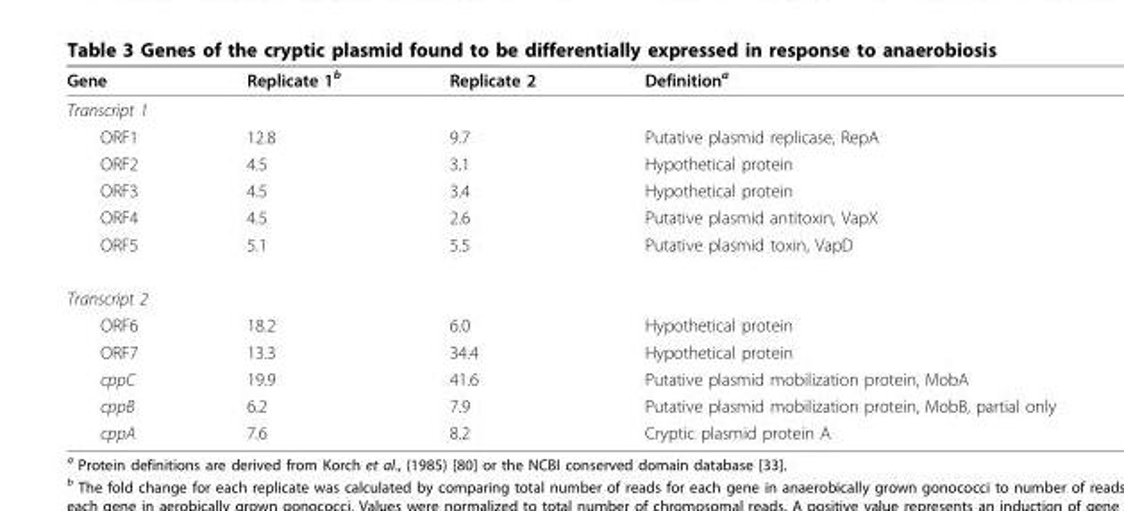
<table><thead><tr><td>Gene</td><td>Replicate 1<sup>b</sup></td><td>Replicate 2</td><td>Definition<sup>a</sup></td></tr></thead><tbody><tr><td colspan="4">Transcript 1</td></tr><tr><td>ORF1</td><td>12.8</td><td>9.7</td><td>Putative plasmid replicase, RepA</td></tr><tr><td>ORF2</td><td>4.5</td><td>3.1</td><td>Hypothetical protein</td></tr><tr><td>ORF3</td><td>4.5</td><td>3.4</td><td>Hypothetical protein</td></tr><tr><td>ORF4</td><td>4.5</td><td>2.6</td><td>Putative plasmid antitoxin, VapX</td></tr><tr><td>ORF5</td><td>5.1</td><td>5.5</td><td>Putative plasmid toxin, VapD</td></tr><tr><td colspan="4">Transcript 2</td></tr><tr><td>ORF6</td><td>18.2</td><td>6.0</td><td>Hypothetical protein</td></tr><tr><td>ORF7</td><td>13.3</td><td>34.4</td><td>Hypothetical protein</td></tr><tr><td>cppC</td><td>19.9</td><td>41.6</td><td>Putative plasmid mobilization protein, MobA</td></tr><tr><td>cppB</td><td>6.2</td><td>7.9</td><td>Putative plasmid mobilization protein, MobB, partial only</td></tr><tr><td>cppA</td><td>7.6</td><td>8.2</td><td>Cryptic plasmid protein A</td></tr></tbody></table>